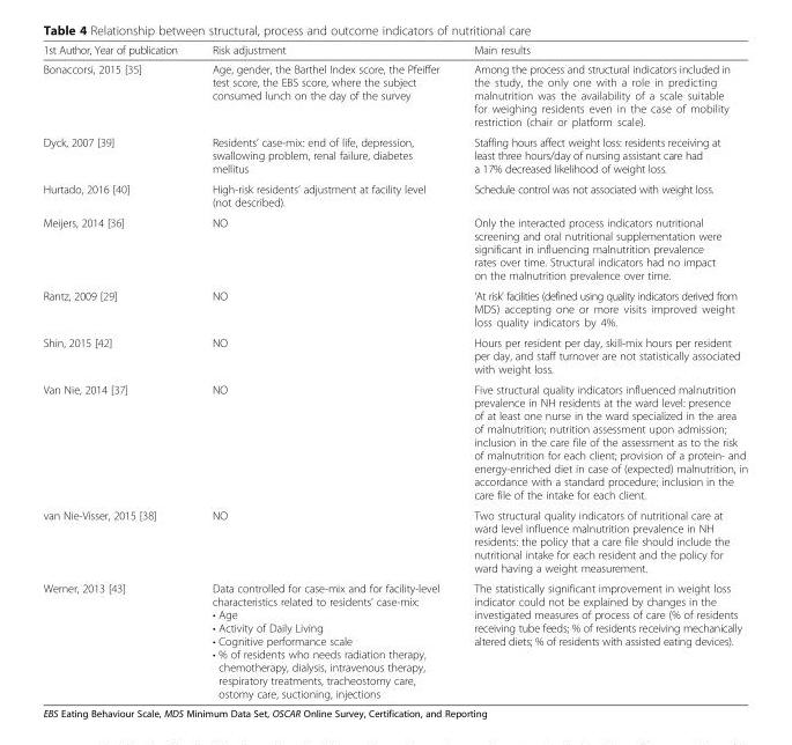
<table><thead><tr><td>1st Author, Year of publication</td><td>Risk adjustment</td><td>Main results</td></tr></thead><tbody><tr><td>Bonaccorsi, 2015 [35]</td><td>Age, gender, the Barthel Index score, the Pfeiffer test score, the EBS score, where the subject consumed lunch on the day of the survey</td><td>Among the process and structural indicators included in the study, the only one with a role in predicting malnutrition was the availability of a scale suitable for weighing residents even in the case of mobility restriction (chair or platform scale).</td></tr><tr><td>Dyck, 2007 [39]</td><td>Residents’ case-mix: end of life, depression, swallowing problem, renal failure, diabetes mellitus</td><td>Staffing hours affect weight loss: residents receiving at least three hours/day of nursing assistant care had a 17% decreased likelihood of weight loss.</td></tr><tr><td>Hurtado, 2016 [40]</td><td>High-risk residents’ adjustment at facility level (not described).</td><td>Schedule control was not associated with weight loss.</td></tr><tr><td>Meijers, 2014 [36]</td><td>NO</td><td>Only the interacted process indicators nutritional screening and oral nutritional supplementation were significant in influencing malnutrition prevalence rates over time. Structural indicators had no impact on the malnutrition prevalence over time.</td></tr><tr><td>Rantz, 2009 [29]</td><td>NO</td><td>‘At risk’ facilities (defined using quality indicators derived from MDS) accepting one or more visits improved weight loss quality indicators by 4%.</td></tr><tr><td>Shin, 2015 [42]</td><td>NO</td><td>Hours per resident per day, skill-mix hours per resident per day, and staff turnover are not statistically associated with weight loss.</td></tr><tr><td>Van Nie, 2014 [37]</td><td>NO</td><td>Five structural quality indicators influenced malnutrition prevalence in NH residents at the ward level: presence of at least one nurse in the ward specialized in the area of malnutrition; nutrition assessment upon admission; inclusion in the care file of the assessment as to the risk of malnutrition for each client; provision of a protein- and energy-enriched diet in case of (expected) malnutrition, in accordance with a standard procedure; inclusion in the care file of the intake for each client.</td></tr><tr><td>van Nie-Visser, 2015 [38]</td><td>NO</td><td>Two structural quality indicators of nutritional care at ward level influence malnutrition prevalence in NH residents: the policy that a care file should include the nutritional intake for each resident and the policy for ward having a weight measurement.</td></tr><tr><td>Werner, 2013 [43]</td><td>Data controlled for case-mix and for facility-level characteristics related to residents’ case-mix: • Age • Activity of Daily Living • Cognitive performance scale • % of residents who needs radiation therapy, chemotherapy, dialysis, intravenous therapy, respiratory treatments, tracheostomy care, ostomy care, suctioning, injections</td><td>The statistically significant improvement in weight loss indicator could not be explained by changes in the investigated measures of process of care (% of residents receiving tube feeds; % of residents receiving mechanically altered diets; % of residents with assisted eating devices).</td></tr></tbody></table>